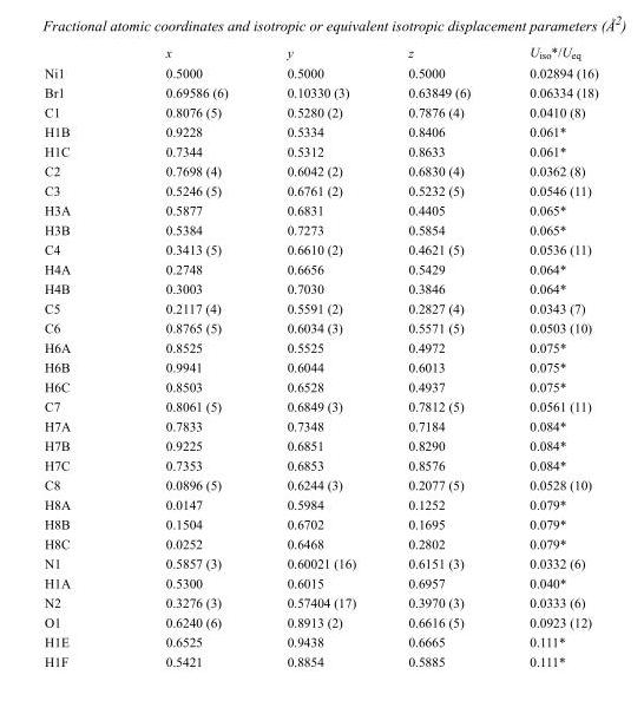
<table><thead><tr><td></td><td>x</td><td>y</td><td>z</td><td>U<sub>iso</sub>*/U<sub>eq</sub></td></tr></thead><tbody><tr><td>Ni1</td><td>0.5000</td><td>0.5000</td><td>0.5000</td><td>0.02894 (16)</td></tr><tr><td>Br1</td><td>0.69586 (6)</td><td>0.10330 (3)</td><td>0.63849 (6)</td><td>0.06334 (18)</td></tr><tr><td>C1</td><td>0.8076 (5)</td><td>0.5280 (2)</td><td>0.7876 (4)</td><td>0.0410 (8)</td></tr><tr><td>H1B</td><td>0.9228</td><td>0.5334</td><td>0.8406</td><td>0.061*</td></tr><tr><td>H1C</td><td>0.7344</td><td>0.5312</td><td>0.8633</td><td>0.061*</td></tr><tr><td>C2</td><td>0.7698 (4)</td><td>0.6042 (2)</td><td>0.6830 (4)</td><td>0.0362 (8)</td></tr><tr><td>C3</td><td>0.5246 (5)</td><td>0.6761 (2)</td><td>0.5232 (5)</td><td>0.0546 (11)</td></tr><tr><td>H3A</td><td>0.5877</td><td>0.6831</td><td>0.4405</td><td>0.065*</td></tr><tr><td>H3B</td><td>0.5384</td><td>0.7273</td><td>0.5854</td><td>0.065*</td></tr><tr><td>C4</td><td>0.3413 (5)</td><td>0.6610 (2)</td><td>0.4621 (5)</td><td>0.0536 (11)</td></tr><tr><td>H4A</td><td>0.2748</td><td>0.6656</td><td>0.5429</td><td>0.064*</td></tr><tr><td>H4B</td><td>0.3003</td><td>0.7030</td><td>0.3846</td><td>0.064*</td></tr><tr><td>C5</td><td>0.2117 (4)</td><td>0.5591 (2)</td><td>0.2827 (4)</td><td>0.0343 (7)</td></tr><tr><td>C6</td><td>0.8765 (5)</td><td>0.6034 (3)</td><td>0.5571 (5)</td><td>0.0503 (10)</td></tr><tr><td>H6A</td><td>0.8525</td><td>0.5525</td><td>0.4972</td><td>0.075*</td></tr><tr><td>H6B</td><td>0.9941</td><td>0.6044</td><td>0.6013</td><td>0.075*</td></tr><tr><td>H6C</td><td>0.8503</td><td>0.6528</td><td>0.4937</td><td>0.075*</td></tr><tr><td>C7</td><td>0.8061 (5)</td><td>0.6849 (3)</td><td>0.7812 (5)</td><td>0.0561 (11)</td></tr><tr><td>H7A</td><td>0.7833</td><td>0.7348</td><td>0.7184</td><td>0.084*</td></tr><tr><td>H7B</td><td>0.9225</td><td>0.6851</td><td>0.8290</td><td>0.084*</td></tr><tr><td>H7C</td><td>0.7353</td><td>0.6853</td><td>0.8576</td><td>0.084*</td></tr><tr><td>C8</td><td>0.0896 (5)</td><td>0.6244 (3)</td><td>0.2077 (5)</td><td>0.0528 (10)</td></tr><tr><td>H8A</td><td>0.0147</td><td>0.5984</td><td>0.1252</td><td>0.079*</td></tr><tr><td>H8B</td><td>0.1504</td><td>0.6702</td><td>0.1695</td><td>0.079*</td></tr><tr><td>H8C</td><td>0.0252</td><td>0.6468</td><td>0.2802</td><td>0.079*</td></tr><tr><td>N1</td><td>0.5857 (3)</td><td>0.60021 (16)</td><td>0.6151 (3)</td><td>0.0332 (6)</td></tr><tr><td>H1A</td><td>0.5300</td><td>0.6015</td><td>0.6957</td><td>0.040*</td></tr><tr><td>N2</td><td>0.3276 (3)</td><td>0.57404 (17)</td><td>0.3970 (3)</td><td>0.0333 (6)</td></tr><tr><td>O1</td><td>0.6240 (6)</td><td>0.8913 (2)</td><td>0.6616 (5)</td><td>0.0923 (12)</td></tr><tr><td>H1E</td><td>0.6525</td><td>0.9438</td><td>0.6665</td><td>0.111*</td></tr><tr><td>H1F</td><td>0.5421</td><td>0.8854</td><td>0.5885</td><td>0.111*</td></tr></tbody></table>